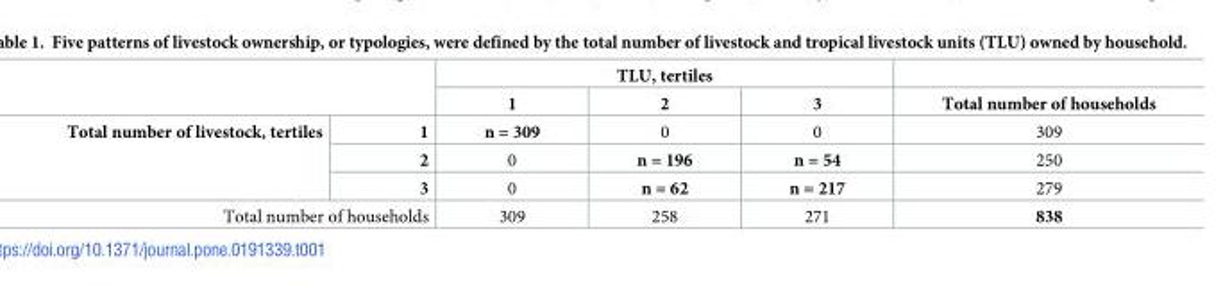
<table><thead><tr><td rowspan="2"></td><td rowspan="2"></td><td colspan="3">TLU, tertiles</td><td rowspan="2">Total number of households</td></tr><tr><td>1</td><td>2</td><td>3</td></tr></thead><tbody><tr><td rowspan="3">Total number of livestock, tertiles</td><td>1</td><td>n = 309</td><td>0</td><td>0</td><td>309</td></tr><tr><td>2</td><td>0</td><td>n = 196</td><td>n = 54</td><td>250</td></tr><tr><td>3</td><td>0</td><td>n = 62</td><td>n = 217</td><td>279</td></tr><tr><td colspan="2">Total number of households</td><td>309</td><td>258</td><td>271</td><td>838</td></tr></tbody></table>